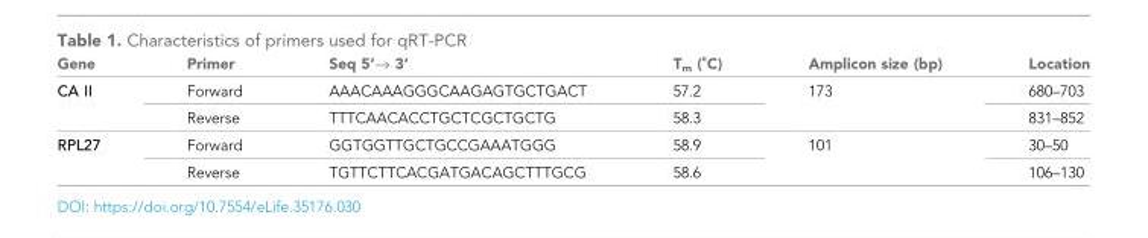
<table><thead><tr><td>Gene</td><td>Primer</td><td>Seq 5’fi 3’</td><td>Tm (˚C)</td><td>Amplicon size (bp)</td><td>Location</td></tr></thead><tbody><tr><td rowspan="2">CA II</td><td>Forward</td><td>AAACAAAGGGCAAGAGTGCTGACT</td><td>57.2</td><td rowspan="2">173</td><td>680–703</td></tr><tr><td>Reverse</td><td>TTTCAACACCTGCTCGCTGCTG</td><td>58.3</td><td>831–852</td></tr><tr><td rowspan="2">RPL27</td><td>Forward</td><td>GGTGGTTGCTGCCGAAATGGG</td><td>58.9</td><td rowspan="2">101</td><td>30–50</td></tr><tr><td>Reverse</td><td>TGTTCTTCACGATGACAGCTTTGCG</td><td>58.6</td><td>106–130</td></tr></tbody></table>